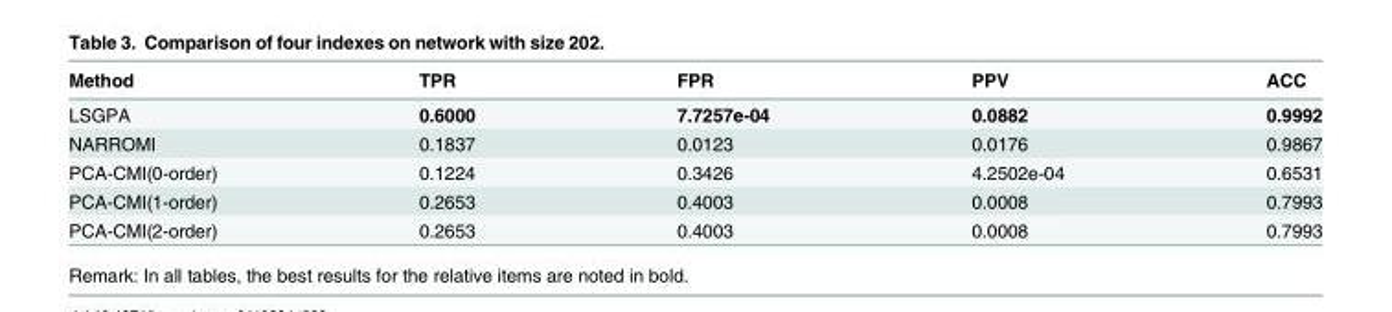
<table><thead><tr><td>Method</td><td>TPR</td><td>FPR</td><td>PPV</td><td>ACC</td></tr></thead><tbody><tr><td>LSGPA</td><td>0.6000</td><td>7.7257e-04</td><td>0.0882</td><td>0.9992</td></tr><tr><td>NARROMI</td><td>0.1837</td><td>0.0123</td><td>0.0176</td><td>0.9867</td></tr><tr><td>PCA-CMI(0-order)</td><td>0.1224</td><td>0.3426</td><td>4.2502e-04</td><td>0.6531</td></tr><tr><td>PCA-CMI(1-order)</td><td>0.2653</td><td>0.4003</td><td>0.0008</td><td>0.7993</td></tr><tr><td>PCA-CMI(2-order)</td><td>0.2653</td><td>0.4003</td><td>0.0008</td><td>0.7993</td></tr></tbody></table>